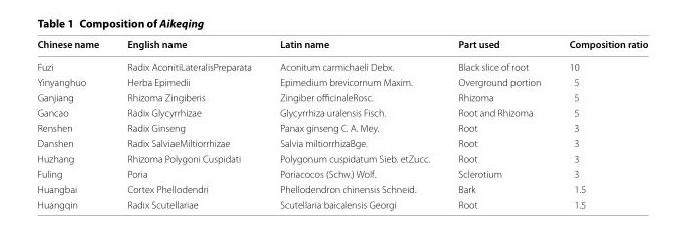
<table><thead><tr><td>Chinese name</td><td>English name</td><td>Latin name</td><td>Part used</td><td>Composition ratio</td></tr></thead><tbody><tr><td>Fuzi</td><td>Radix AconitiLateralisPreparata</td><td>Aconitum carmichaeli Debx.</td><td>Black slice of root</td><td>10</td></tr><tr><td>Yinyanghuo</td><td>Herba Epimedii</td><td>Epimedium brevicornum Maxim.</td><td>Overground portion</td><td>5</td></tr><tr><td>Ganjiang</td><td>Rhizoma Zingiberis</td><td>Zingiber officinaleRosc.</td><td>Rhizoma</td><td>5</td></tr><tr><td>Gancao</td><td>Radix Glycyrrhizae</td><td>Glycyrrhiza uralensis Fisch.</td><td>Root and Rhizoma</td><td>5</td></tr><tr><td>Renshen</td><td>Radix Ginseng</td><td>Panax ginseng C. A. Mey.</td><td>Root</td><td>3</td></tr><tr><td>Danshen</td><td>Radix SalviaeMiltiorrhizae</td><td>Salvia miltiorrhizaBge.</td><td>Root</td><td>3</td></tr><tr><td>Huzhang</td><td>Rhizoma Polygoni Cuspidati</td><td>Polygonum cuspidatum Sieb. etZucc.</td><td>Root</td><td>3</td></tr><tr><td>Fuling</td><td>Poria</td><td>Poriacocos (Schw.) Wolf.</td><td>Sclerotium</td><td>3</td></tr><tr><td>Huangbai</td><td>Cortex Phellodendri</td><td>Phellodendron chinensis Schneid.</td><td>Bark</td><td>1.5</td></tr><tr><td>Huangqin</td><td>Radix Scutellariae</td><td>Scutellaria baicalensis Georgi</td><td>Root</td><td>1.5</td></tr></tbody></table>